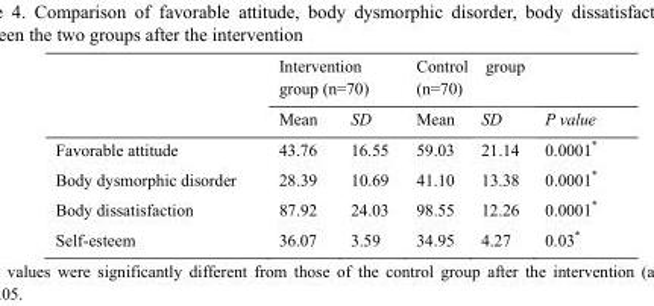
<table><thead><tr><td rowspan="2"></td><td colspan="2">Intervention group (n=70)</td><td colspan="3">Control group (n=70)</td></tr><tr><td>Mean</td><td>SD</td><td>Mean</td><td>SD</td><td>P value</td></tr></thead><tbody><tr><td>Favorable attitude</td><td>43.76</td><td>16.55</td><td>59.03</td><td>21.14</td><td>0.0001*</td></tr><tr><td>Body dysmorphic disorder</td><td>28.39</td><td>10.69</td><td>41.10</td><td>13.38</td><td>0.0001*</td></tr><tr><td>Body dissatisfaction</td><td>87.92</td><td>24.03</td><td>98.55</td><td>12.26</td><td>0.0001*</td></tr><tr><td>Self-esteem</td><td>36.07</td><td>3.59</td><td>34.95</td><td>4.27</td><td>0.03*</td></tr></tbody></table>